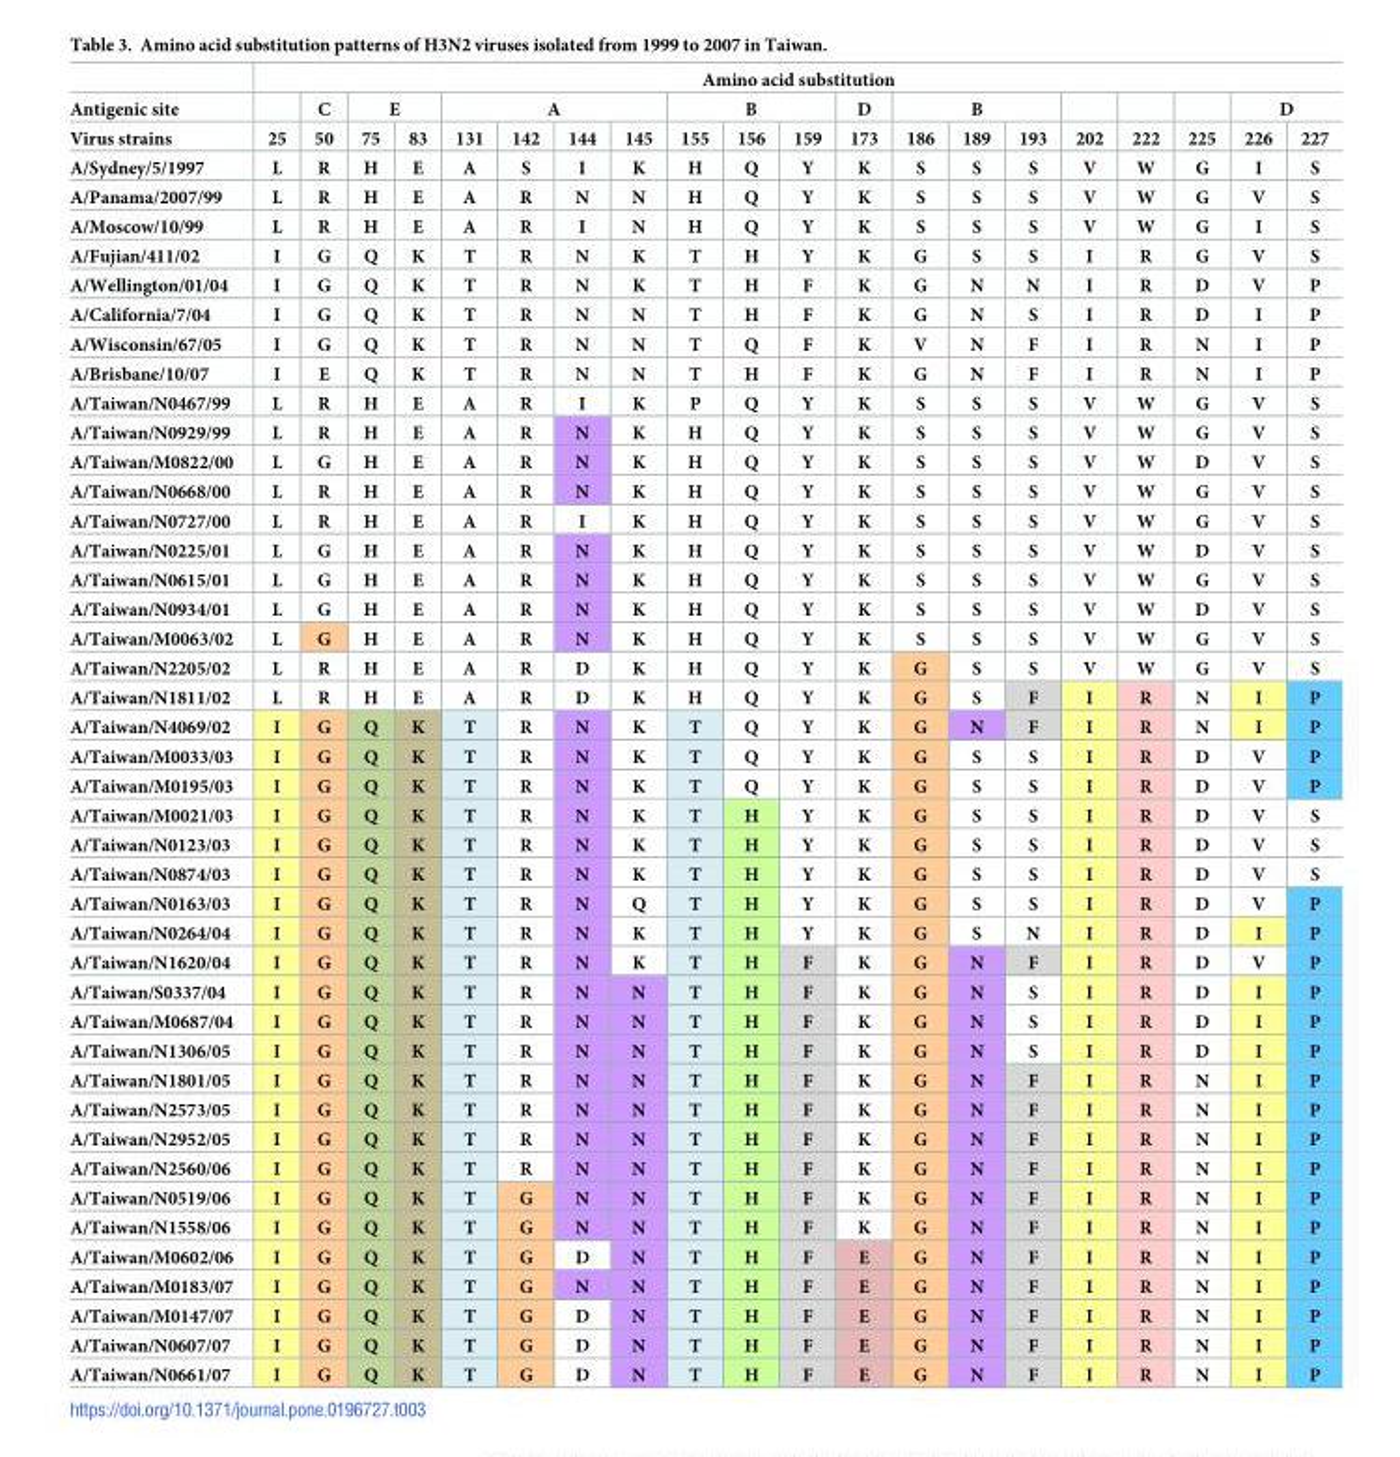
<table><thead><tr><td rowspan="3">Antigenic site Virus strains</td><td colspan="20">Amino acid substitution</td></tr><tr><td rowspan="2">25</td><td rowspan="2">C 50</td><td colspan="2">E</td><td colspan="4">A</td><td colspan="3">B</td><td rowspan="2">D 173</td><td colspan="3">B</td><td rowspan="2">202</td><td rowspan="2">222</td><td rowspan="2">225</td><td colspan="2">D</td></tr><tr><td>75</td><td>83</td><td>131</td><td>142</td><td>144</td><td>145</td><td>155</td><td>156</td><td>159</td><td>186</td><td>189</td><td>193</td><td>226</td><td>227</td></tr></thead><tbody><tr><td>A/Sydney/5/1997</td><td>L</td><td>R</td><td>H</td><td>E</td><td>A</td><td>S</td><td>I</td><td>K</td><td>H</td><td>Q</td><td>Y</td><td>K</td><td>S</td><td>S</td><td>S</td><td>V</td><td>W</td><td>G</td><td>I</td><td>S</td></tr><tr><td>A/Panama/2007/99</td><td>L</td><td>R</td><td>H</td><td>E</td><td>A</td><td>R</td><td>N</td><td>N</td><td>H</td><td>Q</td><td>Y</td><td>K</td><td>S</td><td>S</td><td>S</td><td>V</td><td>W</td><td>G</td><td>V</td><td>S</td></tr><tr><td>A/Moscow/10/99</td><td>L</td><td>R</td><td>H</td><td>E</td><td>A</td><td>R</td><td>I</td><td>N</td><td>H</td><td>Q</td><td>Y</td><td>K</td><td>S</td><td>S</td><td>S</td><td>V</td><td>W</td><td>G</td><td>I</td><td>S</td></tr><tr><td>A/Fujian/411/02</td><td>I</td><td>G</td><td>Q</td><td>K</td><td>T</td><td>R</td><td>N</td><td>K</td><td>T</td><td>H</td><td>Y</td><td>K</td><td>G</td><td>S</td><td>S</td><td>I</td><td>R</td><td>G</td><td>V</td><td>S</td></tr><tr><td>A/Wellington/01/04</td><td>I</td><td>G</td><td>Q</td><td>K</td><td>T</td><td>R</td><td>N</td><td>K</td><td>T</td><td>H</td><td>F</td><td>K</td><td>G</td><td>N</td><td>N</td><td>I</td><td>R</td><td>D</td><td>V</td><td>P</td></tr><tr><td>A/California/7/04</td><td>I</td><td>G</td><td>Q</td><td>K</td><td>T</td><td>R</td><td>N</td><td>N</td><td>T</td><td>H</td><td>F</td><td>K</td><td>G</td><td>N</td><td>S</td><td>I</td><td>R</td><td>D</td><td>I</td><td>P</td></tr><tr><td>A/Wisconsin/67/05</td><td>I</td><td>G</td><td>Q</td><td>K</td><td>T</td><td>R</td><td>N</td><td>N</td><td>T</td><td>Q</td><td>F</td><td>K</td><td>V</td><td>N</td><td>F</td><td>I</td><td>R</td><td>N</td><td>I</td><td>P</td></tr><tr><td>A/Brisbane/10/07</td><td>I</td><td>E</td><td>Q</td><td>K</td><td>T</td><td>R</td><td>N</td><td>N</td><td>T</td><td>H</td><td>F</td><td>K</td><td>G</td><td>N</td><td>F</td><td>I</td><td>R</td><td>N</td><td>I</td><td>P</td></tr><tr><td>A/Taiwan/N0467/99</td><td>L</td><td>R</td><td>H</td><td>E</td><td>A</td><td>R</td><td>I</td><td>K</td><td>P</td><td>Q</td><td>Y</td><td>K</td><td>S</td><td>S</td><td>S</td><td>V</td><td>W</td><td>G</td><td>V</td><td>S</td></tr><tr><td>A/Taiwan/N0929/99</td><td>L</td><td>R</td><td>H</td><td>E</td><td>A</td><td>R</td><td>N</td><td>K</td><td>H</td><td>Q</td><td>Y</td><td>K</td><td>S</td><td>S</td><td>S</td><td>V</td><td>W</td><td>G</td><td>V</td><td>S</td></tr><tr><td>A/Taiwan/M0822/00</td><td>L</td><td>G</td><td>H</td><td>E</td><td>A</td><td>R</td><td>N</td><td>K</td><td>H</td><td>Q</td><td>Y</td><td>K</td><td>S</td><td>S</td><td>S</td><td>V</td><td>W</td><td>D</td><td>V</td><td>S</td></tr><tr><td>A/Taiwan/N0668/00</td><td>L</td><td>R</td><td>H</td><td>E</td><td>A</td><td>R</td><td>N</td><td>K</td><td>H</td><td>Q</td><td>Y</td><td>K</td><td>S</td><td>S</td><td>S</td><td>V</td><td>W</td><td>G</td><td>V</td><td>S</td></tr><tr><td>A/Taiwan/N0727/00</td><td>L</td><td>R</td><td>H</td><td>E</td><td>A</td><td>R</td><td>I</td><td>K</td><td>H</td><td>Q</td><td>Y</td><td>K</td><td>S</td><td>S</td><td>S</td><td>V</td><td>W</td><td>G</td><td>V</td><td>S</td></tr><tr><td>A/Taiwan/N0225/01</td><td>L</td><td>G</td><td>H</td><td>E</td><td>A</td><td>R</td><td>N</td><td>K</td><td>H</td><td>Q</td><td>Y</td><td>K</td><td>S</td><td>S</td><td>S</td><td>V</td><td>W</td><td>D</td><td>V</td><td>S</td></tr><tr><td>A/Taiwan/N0615/01</td><td>L</td><td>G</td><td>H</td><td>E</td><td>A</td><td>R</td><td>N</td><td>K</td><td>H</td><td>Q</td><td>Y</td><td>K</td><td>S</td><td>S</td><td>S</td><td>V</td><td>W</td><td>G</td><td>V</td><td>S</td></tr><tr><td>A/Taiwan/N0934/01</td><td>L</td><td>G</td><td>H</td><td>E</td><td>A</td><td>R</td><td>N</td><td>K</td><td>H</td><td>Q</td><td>Y</td><td>K</td><td>S</td><td>S</td><td>S</td><td>V</td><td>W</td><td>D</td><td>V</td><td>S</td></tr><tr><td>A/Taiwan/M0063/02</td><td>L</td><td>G</td><td>H</td><td>E</td><td>A</td><td>R</td><td>N</td><td>K</td><td>H</td><td>Q</td><td>Y</td><td>K</td><td>S</td><td>S</td><td>S</td><td>V</td><td>W</td><td>G</td><td>V</td><td>S</td></tr><tr><td>A/Taiwan/N2205/02</td><td>L</td><td>R</td><td>H</td><td>E</td><td>A</td><td>R</td><td>D</td><td>K</td><td>H</td><td>Q</td><td>Y</td><td>K</td><td>G</td><td>S</td><td>S</td><td>V</td><td>W</td><td>G</td><td>V</td><td>S</td></tr><tr><td>A/Taiwan/N1811/02</td><td>L</td><td>R</td><td>H</td><td>E</td><td>A</td><td>R</td><td>D</td><td>K</td><td>H</td><td>Q</td><td>Y</td><td>K</td><td>G</td><td>S</td><td>F</td><td>I</td><td>R</td><td>N</td><td>I</td><td>P</td></tr><tr><td>A/Taiwan/N4069/02</td><td>I</td><td>G</td><td>Q</td><td>K</td><td>T</td><td>R</td><td>N</td><td>K</td><td>T</td><td>Q</td><td>Y</td><td>K</td><td>G</td><td>N</td><td>F</td><td>I</td><td>R</td><td>N</td><td>I</td><td>P</td></tr><tr><td>A/Taiwan/M0033/03</td><td>I</td><td>G</td><td>Q</td><td>K</td><td>T</td><td>R</td><td>N</td><td>K</td><td>T</td><td>Q</td><td>Y</td><td>K</td><td>G</td><td>S</td><td>S</td><td>I</td><td>R</td><td>D</td><td>V</td><td>P</td></tr><tr><td>A/Taiwan/M0195/03</td><td>I</td><td>G</td><td>Q</td><td>K</td><td>T</td><td>R</td><td>N</td><td>K</td><td>T</td><td>Q</td><td>Y</td><td>K</td><td>G</td><td>S</td><td>S</td><td>I</td><td>R</td><td>D</td><td>V</td><td>P</td></tr><tr><td>A/Taiwan/M0021/03</td><td>I</td><td>G</td><td>Q</td><td>K</td><td>T</td><td>R</td><td>N</td><td>K</td><td>T</td><td>H</td><td>Y</td><td>K</td><td>G</td><td>S</td><td>S</td><td>I</td><td>R</td><td>D</td><td>V</td><td>S</td></tr><tr><td>A/Taiwan/N0123/03</td><td>I</td><td>G</td><td>Q</td><td>K</td><td>T</td><td>R</td><td>N</td><td>K</td><td>T</td><td>H</td><td>Y</td><td>K</td><td>G</td><td>S</td><td>S</td><td>I</td><td>R</td><td>D</td><td>V</td><td>S</td></tr><tr><td>A/Taiwan/N0874/03</td><td>I</td><td>G</td><td>Q</td><td>K</td><td>T</td><td>R</td><td>N</td><td>K</td><td>T</td><td>H</td><td>Y</td><td>K</td><td>G</td><td>S</td><td>S</td><td>I</td><td>R</td><td>D</td><td>V</td><td>S</td></tr><tr><td>A/Taiwan/N0163/03</td><td>I</td><td>G</td><td>Q</td><td>K</td><td>T</td><td>R</td><td>N</td><td>Q</td><td>T</td><td>H</td><td>Y</td><td>K</td><td>G</td><td>S</td><td>S</td><td>I</td><td>R</td><td>D</td><td>V</td><td>P</td></tr><tr><td>A/Taiwan/N0264/04</td><td>I</td><td>G</td><td>Q</td><td>K</td><td>T</td><td>R</td><td>N</td><td>K</td><td>T</td><td>H</td><td>Y</td><td>K</td><td>G</td><td>S</td><td>N</td><td>I</td><td>R</td><td>D</td><td>I</td><td>P</td></tr><tr><td>A/Taiwan/N1620/04</td><td>I</td><td>G</td><td>Q</td><td>K</td><td>T</td><td>R</td><td>N</td><td>K</td><td>T</td><td>H</td><td>F</td><td>K</td><td>G</td><td>N</td><td>F</td><td>I</td><td>R</td><td>D</td><td>V</td><td>P</td></tr><tr><td>A/Taiwan/S0337/04</td><td>I</td><td>G</td><td>Q</td><td>K</td><td>T</td><td>R</td><td>N</td><td>N</td><td>T</td><td>H</td><td>F</td><td>K</td><td>G</td><td>N</td><td>S</td><td>I</td><td>R</td><td>D</td><td>I</td><td>P</td></tr><tr><td>A/Taiwan/M0687/04</td><td>I</td><td>G</td><td>Q</td><td>K</td><td>T</td><td>R</td><td>N</td><td>N</td><td>T</td><td>H</td><td>F</td><td>K</td><td>G</td><td>N</td><td>S</td><td>I</td><td>R</td><td>D</td><td>I</td><td>P</td></tr><tr><td>A/Taiwan/N1306/05</td><td>I</td><td>G</td><td>Q</td><td>K</td><td>T</td><td>R</td><td>N</td><td>N</td><td>T</td><td>H</td><td>F</td><td>K</td><td>G</td><td>N</td><td>S</td><td>I</td><td>R</td><td>D</td><td>I</td><td>P</td></tr><tr><td>A/Taiwan/N1801/05</td><td>I</td><td>G</td><td>Q</td><td>K</td><td>T</td><td>R</td><td>N</td><td>N</td><td>T</td><td>H</td><td>F</td><td>K</td><td>G</td><td>N</td><td>F</td><td>I</td><td>R</td><td>N</td><td>I</td><td>P</td></tr><tr><td>A/Taiwan/N2573/05</td><td>I</td><td>G</td><td>Q</td><td>K</td><td>T</td><td>R</td><td>N</td><td>N</td><td>T</td><td>H</td><td>F</td><td>K</td><td>G</td><td>N</td><td>F</td><td>I</td><td>R</td><td>N</td><td>I</td><td>P</td></tr><tr><td>A/Taiwan/N2952/05</td><td>I</td><td>G</td><td>Q</td><td>K</td><td>T</td><td>R</td><td>N</td><td>N</td><td>T</td><td>H</td><td>F</td><td>K</td><td>G</td><td>N</td><td>F</td><td>I</td><td>R</td><td>N</td><td>I</td><td>P</td></tr><tr><td>A/Taiwan/N2560/06</td><td>I</td><td>G</td><td>Q</td><td>K</td><td>T</td><td>R</td><td>N</td><td>N</td><td>T</td><td>H</td><td>F</td><td>K</td><td>G</td><td>N</td><td>F</td><td>I</td><td>R</td><td>N</td><td>I</td><td>P</td></tr><tr><td>A/Taiwan/N0519/06</td><td>I</td><td>G</td><td>Q</td><td>K</td><td>T</td><td>G</td><td>N</td><td>N</td><td>T</td><td>H</td><td>F</td><td>K</td><td>G</td><td>N</td><td>F</td><td>I</td><td>R</td><td>N</td><td>I</td><td>P</td></tr><tr><td>A/Taiwan/N1558/06</td><td>I</td><td>G</td><td>Q</td><td>K</td><td>T</td><td>G</td><td>N</td><td>N</td><td>T</td><td>H</td><td>F</td><td>K</td><td>G</td><td>N</td><td>F</td><td>I</td><td>R</td><td>N</td><td>I</td><td>P</td></tr><tr><td>A/Taiwan/M0602/06</td><td>I</td><td>G</td><td>Q</td><td>K</td><td>T</td><td>G</td><td>D</td><td>N</td><td>T</td><td>H</td><td>F</td><td>E</td><td>G</td><td>N</td><td>F</td><td>I</td><td>R</td><td>N</td><td>I</td><td>P</td></tr><tr><td>A/Taiwan/M0183/07</td><td>I</td><td>G</td><td>Q</td><td>K</td><td>T</td><td>G</td><td>N</td><td>N</td><td>T</td><td>H</td><td>F</td><td>E</td><td>G</td><td>N</td><td>F</td><td>I</td><td>R</td><td>N</td><td>I</td><td>P</td></tr><tr><td>A/Taiwan/M0147/07</td><td>I</td><td>G</td><td>Q</td><td>K</td><td>T</td><td>G</td><td>D</td><td>N</td><td>T</td><td>H</td><td>F</td><td>E</td><td>G</td><td>N</td><td>F</td><td>I</td><td>R</td><td>N</td><td>I</td><td>P</td></tr><tr><td>A/Taiwan/N0607/07</td><td>I</td><td>G</td><td>Q</td><td>K</td><td>T</td><td>G</td><td>D</td><td>N</td><td>T</td><td>H</td><td>F</td><td>E</td><td>G</td><td>N</td><td>F</td><td>I</td><td>R</td><td>N</td><td>I</td><td>P</td></tr><tr><td>A/Taiwan/N0661/07</td><td>I</td><td>G</td><td>Q</td><td>K</td><td>T</td><td>G</td><td>D</td><td>N</td><td>T</td><td>H</td><td>F</td><td>E</td><td>G</td><td>N</td><td>F</td><td>I</td><td>R</td><td>N</td><td>I</td><td>P</td></tr></tbody></table>